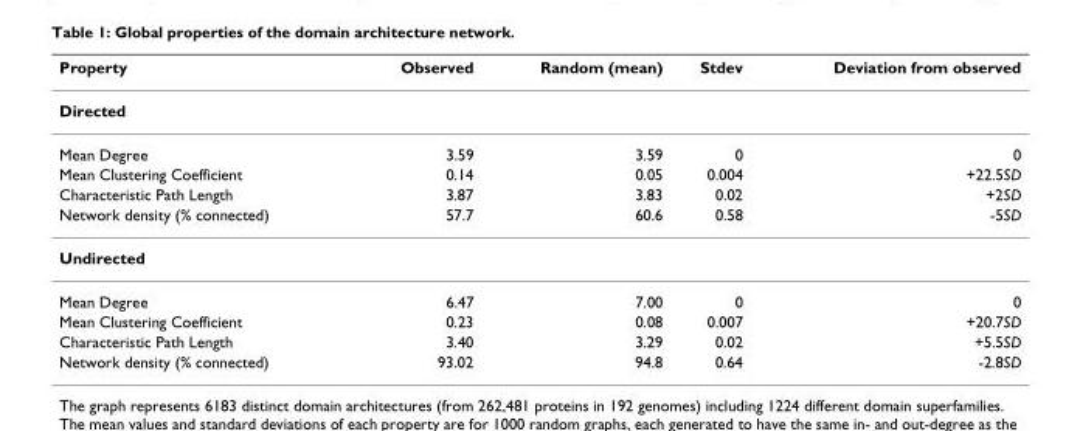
<table><thead><tr><td>Property</td><td>Observed</td><td>Random (mean)</td><td>Stdev</td><td>Deviation from observed</td></tr></thead><tbody><tr><td colspan="5">Directed</td></tr><tr><td>Mean Degree</td><td>3.59</td><td>3.59</td><td>0</td><td>0</td></tr><tr><td>Mean Clustering Coefficient</td><td>0.14</td><td>0.05</td><td>0.004</td><td>+22.5SD</td></tr><tr><td>Characteristic Path Length</td><td>3.87</td><td>3.83</td><td>0.02</td><td>+2SD</td></tr><tr><td>Network density (% connected)</td><td>57.7</td><td>60.6</td><td>0.58</td><td>-5SD</td></tr><tr><td colspan="5">Undirected</td></tr><tr><td>Mean Degree</td><td>6.47</td><td>7.00</td><td>0</td><td>0</td></tr><tr><td>Mean Clustering Coefficient</td><td>0.23</td><td>0.08</td><td>0.007</td><td>+20.7SD</td></tr><tr><td>Characteristic Path Length</td><td>3.40</td><td>3.29</td><td>0.02</td><td>+5.5SD</td></tr><tr><td>Network density (% connected)</td><td>93.02</td><td>94.8</td><td>0.64</td><td>-2.8SD</td></tr></tbody></table>